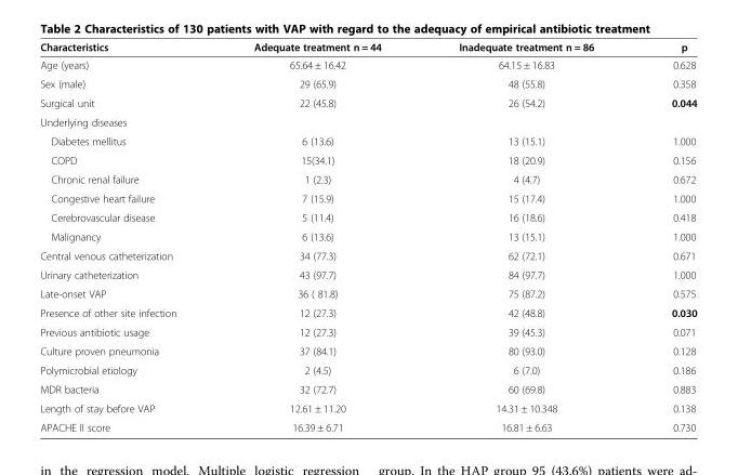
<table><thead><tr><td>Characteristics</td><td>Adequate treatment n = 44</td><td>Inadequate treatment n = 86</td><td>p</td></tr></thead><tbody><tr><td>Age (years)</td><td>65.64 ± 16.42</td><td>64.15 ± 16.83</td><td>0.628</td></tr><tr><td>Sex (male)</td><td>29 (65.9)</td><td>48 (55.8)</td><td>0.358</td></tr><tr><td>Surgical unit</td><td>22 (45.8)</td><td>26 (54.2)</td><td>0.044</td></tr><tr><td colspan="4">Underlying diseases</td></tr><tr><td>Diabetes mellitus</td><td>6 (13.6)</td><td>13 (15.1)</td><td>1.000</td></tr><tr><td>COPD</td><td>15(34.1)</td><td>18 (20.9)</td><td>0.156</td></tr><tr><td>Chronic renal failure</td><td>1 (2.3)</td><td>4 (4.7)</td><td>0.672</td></tr><tr><td>Congestive heart failure</td><td>7 (15.9)</td><td>15 (17.4)</td><td>1.000</td></tr><tr><td>Cerebrovascular disease</td><td>5 (11.4)</td><td>16 (18.6)</td><td>0.418</td></tr><tr><td>Malignancy</td><td>6 (13.6)</td><td>13 (15.1)</td><td>1.000</td></tr><tr><td>Central venous catheterization</td><td>34 (77.3)</td><td>62 (72.1)</td><td>0.671</td></tr><tr><td>Urinary catheterization</td><td>43 (97.7)</td><td>84 (97.7)</td><td>1.000</td></tr><tr><td>Late-onset VAP</td><td>36 ( 81.8)</td><td>75 (87.2)</td><td>0.575</td></tr><tr><td>Presence of other site infection</td><td>12 (27.3)</td><td>42 (48.8)</td><td>0.030</td></tr><tr><td>Previous antibiotic usage</td><td>12 (27.3)</td><td>39 (45.3)</td><td>0.071</td></tr><tr><td>Culture proven pneumonia</td><td>37 (84.1)</td><td>80 (93.0)</td><td>0.128</td></tr><tr><td>Polymicrobial etiology</td><td>2 (4.5)</td><td>6 (7.0)</td><td>0.186</td></tr><tr><td>MDR bacteria</td><td>32 (72.7)</td><td>60 (69.8)</td><td>0.883</td></tr><tr><td>Length of stay before VAP</td><td>12.61 ± 11.20</td><td>14.31 ± 10.348</td><td>0.138</td></tr><tr><td>APACHE II score</td><td>16.39 ± 6.71</td><td>16.81 ± 6.63</td><td>0.730</td></tr></tbody></table>